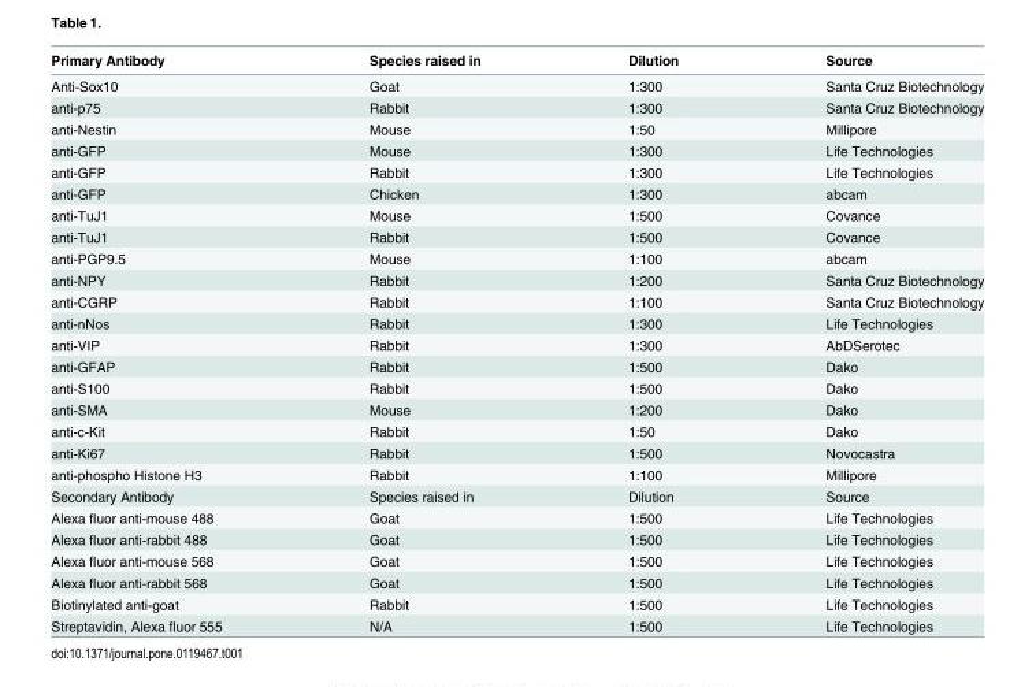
<table><thead><tr><td>Primary Antibody</td><td>Species raised in</td><td>Dilution</td><td>Source</td></tr></thead><tbody><tr><td>Anti-Sox10</td><td>Goat</td><td>1:300</td><td>Santa Cruz Biotechnology</td></tr><tr><td>anti-p75</td><td>Rabbit</td><td>1:300</td><td>Santa Cruz Biotechnology</td></tr><tr><td>anti-Nestin</td><td>Mouse</td><td>1:50</td><td>Millipore</td></tr><tr><td>anti-GFP</td><td>Mouse</td><td>1:300</td><td>Life Technologies</td></tr><tr><td>anti-GFP</td><td>Rabbit</td><td>1:300</td><td>Life Technologies</td></tr><tr><td>anti-GFP</td><td>Chicken</td><td>1:300</td><td>abcam</td></tr><tr><td>anti-TuJ1</td><td>Mouse</td><td>1:500</td><td>Covance</td></tr><tr><td>anti-TuJ1</td><td>Rabbit</td><td>1:500</td><td>Covance</td></tr><tr><td>anti-PGP9.5</td><td>Mouse</td><td>1:100</td><td>abcam</td></tr><tr><td>anti-NPY</td><td>Rabbit</td><td>1:200</td><td>Santa Cruz Biotechnology</td></tr><tr><td>anti-CGRP</td><td>Rabbit</td><td>1:100</td><td>Santa Cruz Biotechnology</td></tr><tr><td>anti-nNos</td><td>Rabbit</td><td>1:300</td><td>Life Technologies</td></tr><tr><td>anti-VIP</td><td>Rabbit</td><td>1:300</td><td>AbDSerotec</td></tr><tr><td>anti-GFAP</td><td>Rabbit</td><td>1:500</td><td>Dako</td></tr><tr><td>anti-S100</td><td>Rabbit</td><td>1:500</td><td>Dako</td></tr><tr><td>anti-SMA</td><td>Mouse</td><td>1:200</td><td>Dako</td></tr><tr><td>anti-c-Kit</td><td>Rabbit</td><td>1:50</td><td>Dako</td></tr><tr><td>anti-Ki67</td><td>Rabbit</td><td>1:500</td><td>Novocastra</td></tr><tr><td>anti-phospho Histone H3</td><td>Rabbit</td><td>1:100</td><td>Millipore</td></tr><tr><td>Secondary Antibody</td><td>Species raised in</td><td>Dilution</td><td>Source</td></tr><tr><td>Alexa fluor anti-mouse 488</td><td>Goat</td><td>1:500</td><td>Life Technologies</td></tr><tr><td>Alexa fluor anti-rabbit 488</td><td>Goat</td><td>1:500</td><td>Life Technologies</td></tr><tr><td>Alexa fluor anti-mouse 568</td><td>Goat</td><td>1:500</td><td>Life Technologies</td></tr><tr><td>Alexa fluor anti-rabbit 568</td><td>Goat</td><td>1:500</td><td>Life Technologies</td></tr><tr><td>Biotinylated anti-goat</td><td>Rabbit</td><td>1:500</td><td>Life Technologies</td></tr><tr><td>Streptavidin, Alexa fluor 555</td><td>N/A</td><td>1:500</td><td>Life Technologies</td></tr></tbody></table>